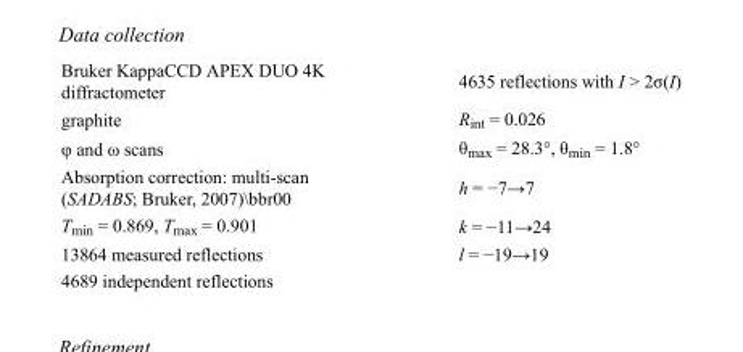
<table><tbody><tr><td>Bruker KappaCCD APEX DUO 4K diffractometer</td><td>4635 reflections with I &gt; 2σ(I)</td></tr><tr><td>graphite</td><td>R<sub>int</sub> = 0.026</td></tr><tr><td>φ and ω scans</td><td>θ<sub>max</sub> = 28.3°, θ<sub>min</sub> = 1.8°</td></tr><tr><td>Absorption correction: multi-scan (SADABS; Bruker, 2007)\bbr00</td><td>h = −7→7</td></tr><tr><td>T<sub>min</sub> = 0.869, T<sub>max</sub> = 0.901</td><td>k = −11→24</td></tr><tr><td>13864 measured reflections</td><td>l = −19→19</td></tr><tr><td>4689 independent reflections</td><td></td></tr></tbody></table>